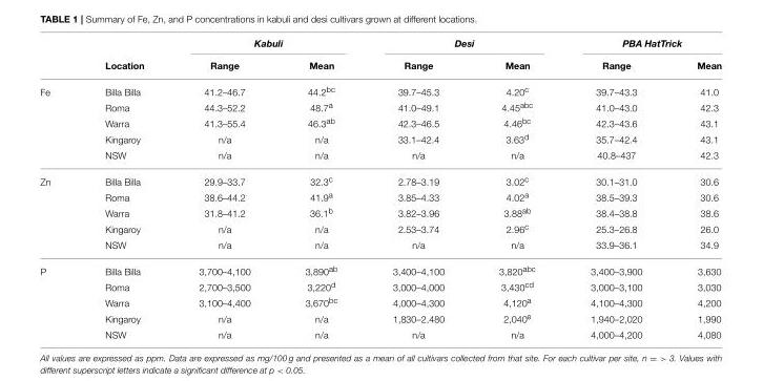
<table><thead><tr><td rowspan="2"></td><td rowspan="2">Location</td><td colspan="2">Kabuli</td><td colspan="2">Desi</td><td colspan="2">PBA HatTrick</td></tr><tr><td>Range</td><td>Mean</td><td>Range</td><td>Mean</td><td>Range</td><td>Mean</td></tr></thead><tbody><tr><td rowspan="5">Fe</td><td>Billa Billa</td><td>41.2–46.7</td><td>44.2<sup>bc</sup></td><td>39.7–45.3</td><td>4.20<sup>c</sup></td><td>39.7–43.3</td><td>41.0</td></tr><tr><td>Roma</td><td>44.3–52.2</td><td>48.7<sup>a</sup></td><td>41.0–49.1</td><td>4.45<sup>abc</sup></td><td>41.0–43.0</td><td>42.3</td></tr><tr><td>Warra</td><td>41.3–55.4</td><td>46.3<sup>ab</sup></td><td>42.3–46.5</td><td>4.46<sup>bc</sup></td><td>42.3–43.6</td><td>43.1</td></tr><tr><td>Kingaroy</td><td>n/a</td><td>n/a</td><td>33.1–42.4</td><td>3.63<sup>d</sup></td><td>35.7–42.4</td><td>43.1</td></tr><tr><td>NSW</td><td>n/a</td><td>n/a</td><td>n/a</td><td>n/a</td><td>40.8–437</td><td>42.3</td></tr><tr><td rowspan="5">Zn</td><td>Billa Billa</td><td>29.9–33.7</td><td>32.3<sup>c</sup></td><td>2.78–3.19</td><td>3.02<sup>c</sup></td><td>30.1–31.0</td><td>30.6</td></tr><tr><td>Roma</td><td>38.6–44.2</td><td>41.9<sup>a</sup></td><td>3.85–4.33</td><td>4.02<sup>a</sup></td><td>38.5–39.3</td><td>30.6</td></tr><tr><td>Warra</td><td>31.8–41.2</td><td>36.1<sup>b</sup></td><td>3.82–3.96</td><td>3.88<sup>ab</sup></td><td>38.4–38.8</td><td>38.6</td></tr><tr><td>Kingaroy</td><td>n/a</td><td>n/a</td><td>2.53–3.74</td><td>2.96<sup>c</sup></td><td>25.3–26.8</td><td>26.0</td></tr><tr><td>NSW</td><td>n/a</td><td>n/a</td><td>n/a</td><td>n/a</td><td>33.9–36.1</td><td>34.9</td></tr><tr><td rowspan="5">P</td><td>Billa Billa</td><td>3,700–4,100</td><td>3,890<sup>ab</sup></td><td>3,400–4,100</td><td>3,820<sup>abc</sup></td><td>3,400–3,900</td><td>3,630</td></tr><tr><td>Roma</td><td>2,700–3,500</td><td>3,220<sup>d</sup></td><td>3,000–4,000</td><td>3,430<sup>cd</sup></td><td>3,000–3,100</td><td>3,030</td></tr><tr><td>Warra</td><td>3,100–4,400</td><td>3,670<sup>bc</sup></td><td>4,000–4,300</td><td>4,120<sup>a</sup></td><td>4,100–4,300</td><td>4,200</td></tr><tr><td>Kingaroy</td><td>n/a</td><td>n/a</td><td>1,830–2,480</td><td>2,040<sup>e</sup></td><td>1,940–2,020</td><td>1,990</td></tr><tr><td>NSW</td><td>n/a</td><td>n/a</td><td>n/a</td><td>n/a</td><td>4,000–4,200</td><td>4,080</td></tr></tbody></table>